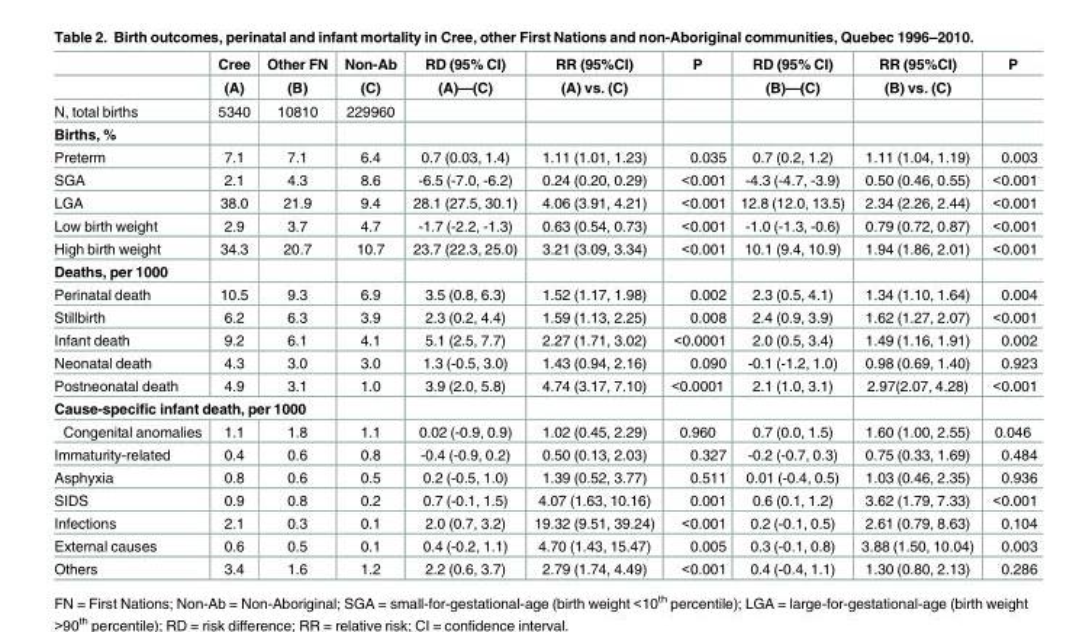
<table><thead><tr><td rowspan="2"></td><td rowspan="2">Cree (A)</td><td rowspan="2">Other FN (B)</td><td rowspan="2">Non-Ab (C)</td><td rowspan="2">RD (95% CI) (A)—(C)</td><td rowspan="2">RR (95%CI) (A) vs. (C)</td><td rowspan="2">P</td><td rowspan="2">RD (95% CI) (B)—(C)</td><td rowspan="2">RR (95%CI) (B) vs. (C)</td><td rowspan="2">P</td></tr><tr></tr></thead><tbody><tr><td>N, total births</td><td>5340</td><td>10810</td><td>229960</td><td></td><td></td><td></td><td></td><td></td><td></td></tr><tr><td colspan="10">Births, %</td></tr><tr><td>Preterm</td><td>7.1</td><td>7.1</td><td>6.4</td><td>0.7 (0.03, 1.4)</td><td>1.11 (1.01, 1.23)</td><td>0.035</td><td>0.7 (0.2, 1.2)</td><td>1.11 (1.04, 1.19)</td><td>0.003</td></tr><tr><td>SGA</td><td>2.1</td><td>4.3</td><td>8.6</td><td>-6.5 (-7.0, -6.2)</td><td>0.24 (0.20, 0.29)</td><td>&lt;0.001</td><td>-4.3 (-4.7, -3.9)</td><td>0.50 (0.46, 0.55)</td><td>&lt;0.001</td></tr><tr><td>LGA</td><td>38.0</td><td>21.9</td><td>9.4</td><td>28.1 (27.5, 30.1)</td><td>4.06 (3.91, 4.21)</td><td>&lt;0.001</td><td>12.8 (12.0, 13.5)</td><td>2.34 (2.26, 2.44)</td><td>&lt;0.001</td></tr><tr><td>Low birth weight</td><td>2.9</td><td>3.7</td><td>4.7</td><td>-1.7 (-2.2, -1.3)</td><td>0.63 (0.54, 0.73)</td><td>&lt;0.001</td><td>-1.0 (-1.3, -0.6)</td><td>0.79 (0.72, 0.87)</td><td>&lt;0.001</td></tr><tr><td>High birth weight</td><td>34.3</td><td>20.7</td><td>10.7</td><td>23.7 (22.3, 25.0)</td><td>3.21 (3.09, 3.34)</td><td>&lt;0.001</td><td>10.1 (9.4, 10.9)</td><td>1.94 (1.86, 2.01)</td><td>&lt;0.001</td></tr><tr><td colspan="10">Deaths, per 1000</td></tr><tr><td>Perinatal death</td><td>10.5</td><td>9.3</td><td>6.9</td><td>3.5 (0.8, 6.3)</td><td>1.52 (1.17, 1.98)</td><td>0.002</td><td>2.3 (0.5, 4.1)</td><td>1.34 (1.10, 1.64)</td><td>0.004</td></tr><tr><td>Stillbirth</td><td>6.2</td><td>6.3</td><td>3.9</td><td>2.3 (0.2, 4.4)</td><td>1.59 (1.13, 2.25)</td><td>0.008</td><td>2.4 (0.9, 3.9)</td><td>1.62 (1.27, 2.07)</td><td>&lt;0.001</td></tr><tr><td>Infant death</td><td>9.2</td><td>6.1</td><td>4.1</td><td>5.1 (2.5, 7.7)</td><td>2.27 (1.71, 3.02)</td><td>&lt;0.0001</td><td>2.0 (0.5, 3.4)</td><td>1.49 (1.16, 1.91)</td><td>0.002</td></tr><tr><td>Neonatal death</td><td>4.3</td><td>3.0</td><td>3.0</td><td>1.3 (-0.5, 3.0)</td><td>1.43 (0.94, 2.16)</td><td>0.090</td><td>-0.1 (-1.2, 1.0)</td><td>0.98 (0.69, 1.40)</td><td>0.923</td></tr><tr><td>Postneonatal death</td><td>4.9</td><td>3.1</td><td>1.0</td><td>3.9 (2.0, 5.8)</td><td>4.74 (3.17, 7.10)</td><td>&lt;0.0001</td><td>2.1 (1.0, 3.1)</td><td>2.97(2.07, 4.28)</td><td>&lt;0.001</td></tr><tr><td colspan="10">Cause-specific infant death, per 1000</td></tr><tr><td>Congenital anomalies</td><td>1.1</td><td>1.8</td><td>1.1</td><td>0.02 (-0.9, 0.9)</td><td>1.02 (0.45, 2.29)</td><td>0.960</td><td>0.7 (0.0, 1.5)</td><td>1.60 (1.00, 2.55)</td><td>0.046</td></tr><tr><td>Immaturity-related</td><td>0.4</td><td>0.6</td><td>0.8</td><td>-0.4 (-0.9, 0.2)</td><td>0.50 (0.13, 2.03)</td><td>0.327</td><td>-0.2 (-0.7, 0.3)</td><td>0.75 (0.33, 1.69)</td><td>0.484</td></tr><tr><td>Asphyxia</td><td>0.8</td><td>0.6</td><td>0.5</td><td>0.2 (-0.5, 1.0)</td><td>1.39 (0.52, 3.77)</td><td>0.511</td><td>0.01 (-0.4, 0.5)</td><td>1.03 (0.46, 2.35)</td><td>0.936</td></tr><tr><td>SIDS</td><td>0.9</td><td>0.8</td><td>0.2</td><td>0.7 (-0.1, 1.5)</td><td>4.07 (1.63, 10.16)</td><td>0.001</td><td>0.6 (0.1, 1.2)</td><td>3.62 (1.79, 7.33)</td><td>&lt;0.001</td></tr><tr><td>Infections</td><td>2.1</td><td>0.3</td><td>0.1</td><td>2.0 (0.7, 3.2)</td><td>19.32 (9.51, 39.24)</td><td>&lt;0.001</td><td>0.2 (-0.1, 0.5)</td><td>2.61 (0.79, 8.63)</td><td>0.104</td></tr><tr><td>External causes</td><td>0.6</td><td>0.5</td><td>0.1</td><td>0.4 (-0.2, 1.1)</td><td>4.70 (1.43, 15.47)</td><td>0.005</td><td>0.3 (-0.1, 0.8)</td><td>3.88 (1.50, 10.04)</td><td>0.003</td></tr><tr><td>Others</td><td>3.4</td><td>1.6</td><td>1.2</td><td>2.2 (0.6, 3.7)</td><td>2.79 (1.74, 4.49)</td><td>&lt;0.001</td><td>0.4 (-0.4, 1.1)</td><td>1.30 (0.80, 2.13)</td><td>0.286</td></tr></tbody></table>